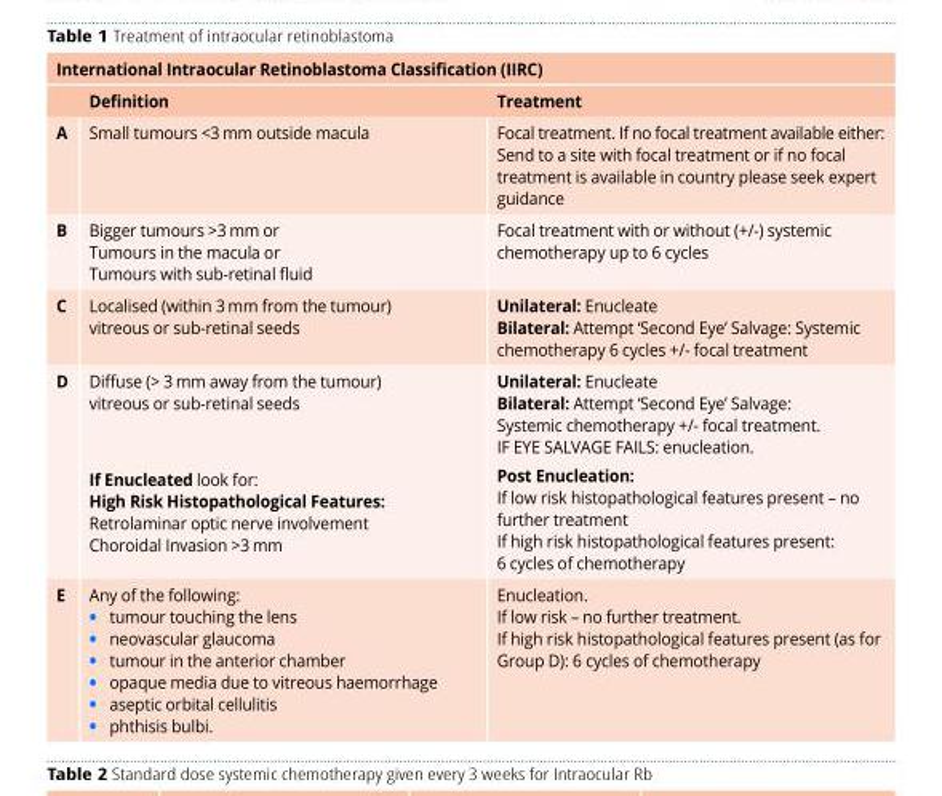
<table><thead><tr><td colspan="3">International Intraocular Retinoblastoma Classification (IIRC)</td></tr><tr><td></td><td>Definition</td><td>Treatment</td></tr></thead><tbody><tr><td>A</td><td>Small tumours &lt;3 mm outside macula</td><td>Focal treatment. If no focal treatment available either: Send to a site with focal treatment or if no focal treatment is available in country please seek expert guidance</td></tr><tr><td>B</td><td>Bigger tumours &gt;3 mm or Tumours in the macula or Tumours with sub-retinal fluid</td><td>Focal treatment with or without (+/-) systemic chemotherapy up to 6 cycles</td></tr><tr><td>C</td><td>Localised (within 3 mm from the tumour) vitreous or sub-retinal seeds</td><td>Unilateral: Enucleate Bilateral: Attempt ‘Second Eye’ Salvage: Systemic chemotherapy 6 cycles +/- focal treatment</td></tr><tr><td rowspan="2">D</td><td>Diffuse (&gt; 3 mm away from the tumour) vitreous or sub-retinal seeds</td><td>Unilateral: Enucleate Bilateral: Attempt ‘Second Eye’ Salvage: Systemic chemotherapy +/- focal treatment. IF EYE SALVAGE FAILS: enucleation.</td></tr><tr><td>If Enucleated look for: High Risk Histopathological Features: Retrolaminar optic nerve involvement Choroidal Invasion &gt;3 mm</td><td>Post Enucleation: If low risk histopathological features present – no further treatment If high risk histopathological features present: 6 cycles of chemotherapy</td></tr><tr><td>E</td><td>Any of the following: • tumour touching the lens • neovascular glaucoma • tumour in the anterior chamber • opaque media due to vitreous haemorrhage • aseptic orbital cellulitis • phthisis bulbi.</td><td>Enucleation. If low risk – no further treatment. If high risk histopathological features present (as for Group D): 6 cycles of chemotherapy</td></tr></tbody></table>